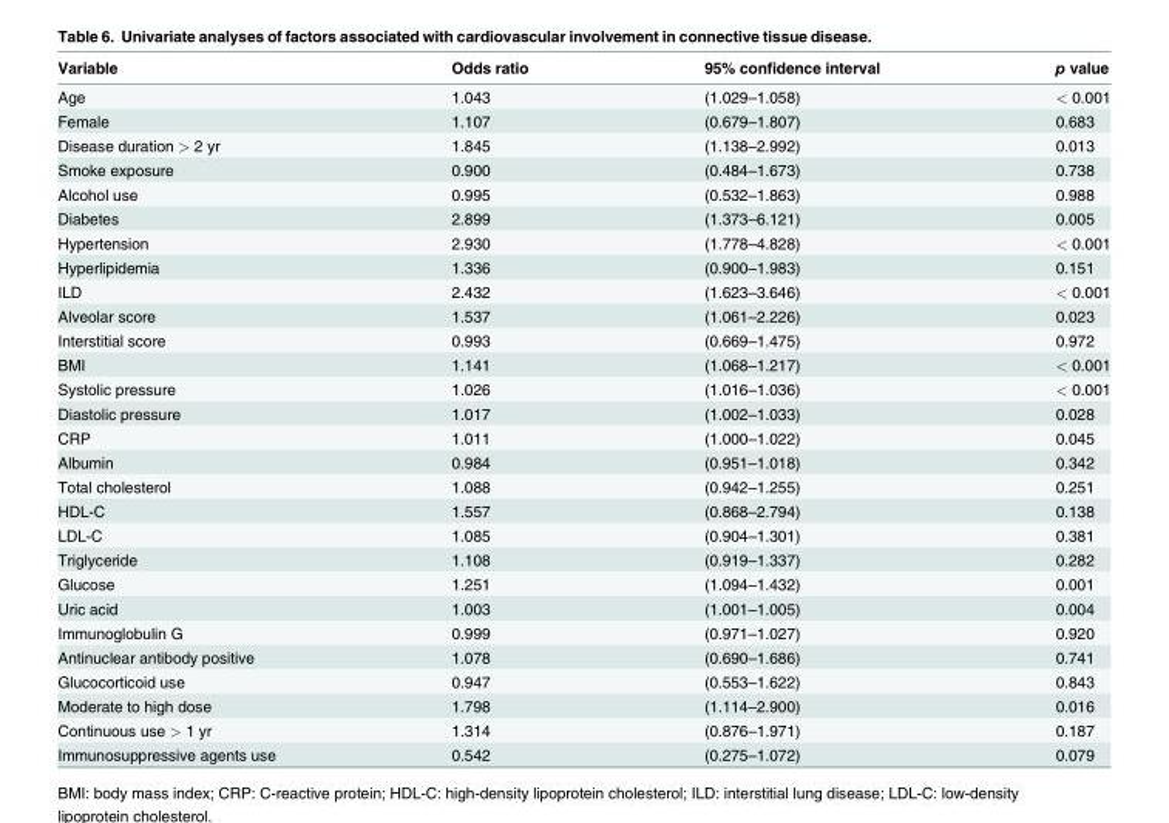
<table><thead><tr><td>Variable</td><td>Odds ratio</td><td>95% confidence interval</td><td>p value</td></tr></thead><tbody><tr><td>Age</td><td>1.043</td><td>(1.029–1.058)</td><td>&lt; 0.001</td></tr><tr><td>Female</td><td>1.107</td><td>(0.679–1.807)</td><td>0.683</td></tr><tr><td>Disease duration &gt; 2 yr</td><td>1.845</td><td>(1.138–2.992)</td><td>0.013</td></tr><tr><td>Smoke exposure</td><td>0.900</td><td>(0.484–1.673)</td><td>0.738</td></tr><tr><td>Alcohol use</td><td>0.995</td><td>(0.532–1.863)</td><td>0.988</td></tr><tr><td>Diabetes</td><td>2.899</td><td>(1.373–6.121)</td><td>0.005</td></tr><tr><td>Hypertension</td><td>2.930</td><td>(1.778–4.828)</td><td>&lt; 0.001</td></tr><tr><td>Hyperlipidemia</td><td>1.336</td><td>(0.900–1.983)</td><td>0.151</td></tr><tr><td>ILD</td><td>2.432</td><td>(1.623–3.646)</td><td>&lt; 0.001</td></tr><tr><td>Alveolar score</td><td>1.537</td><td>(1.061–2.226)</td><td>0.023</td></tr><tr><td>Interstitial score</td><td>0.993</td><td>(0.669–1.475)</td><td>0.972</td></tr><tr><td>BMI</td><td>1.141</td><td>(1.068–1.217)</td><td>&lt; 0.001</td></tr><tr><td>Systolic pressure</td><td>1.026</td><td>(1.016–1.036)</td><td>&lt; 0.001</td></tr><tr><td>Diastolic pressure</td><td>1.017</td><td>(1.002–1.033)</td><td>0.028</td></tr><tr><td>CRP</td><td>1.011</td><td>(1.000–1.022)</td><td>0.045</td></tr><tr><td>Albumin</td><td>0.984</td><td>(0.951–1.018)</td><td>0.342</td></tr><tr><td>Total cholesterol</td><td>1.088</td><td>(0.942–1.255)</td><td>0.251</td></tr><tr><td>HDL-C</td><td>1.557</td><td>(0.868–2.794)</td><td>0.138</td></tr><tr><td>LDL-C</td><td>1.085</td><td>(0.904–1.301)</td><td>0.381</td></tr><tr><td>Triglyceride</td><td>1.108</td><td>(0.919–1.337)</td><td>0.282</td></tr><tr><td>Glucose</td><td>1.251</td><td>(1.094–1.432)</td><td>0.001</td></tr><tr><td>Uric acid</td><td>1.003</td><td>(1.001–1.005)</td><td>0.004</td></tr><tr><td>Immunoglobulin G</td><td>0.999</td><td>(0.971–1.027)</td><td>0.920</td></tr><tr><td>Antinuclear antibody positive</td><td>1.078</td><td>(0.690–1.686)</td><td>0.741</td></tr><tr><td>Glucocorticoid use</td><td>0.947</td><td>(0.553–1.622)</td><td>0.843</td></tr><tr><td>Moderate to high dose</td><td>1.798</td><td>(1.114–2.900)</td><td>0.016</td></tr><tr><td>Continuous use &gt; 1 yr</td><td>1.314</td><td>(0.876–1.971)</td><td>0.187</td></tr><tr><td>Immunosuppressive agents use</td><td>0.542</td><td>(0.275–1.072)</td><td>0.079</td></tr></tbody></table>